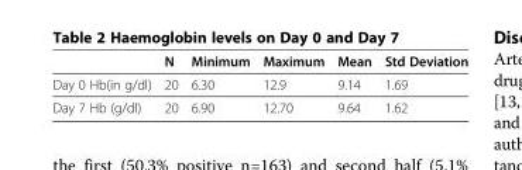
<table><thead><tr><td></td><td>N</td><td>Minimum</td><td>Maximum</td><td>Mean</td><td>Std Deviation</td></tr></thead><tbody><tr><td>Day 0 Hb(in g/dl)</td><td>20</td><td>6.30</td><td>12.9</td><td>9.14</td><td>1.69</td></tr><tr><td>Day 7 Hb (g/dl)</td><td>20</td><td>6.90</td><td>12.70</td><td>9.64</td><td>1.62</td></tr></tbody></table>